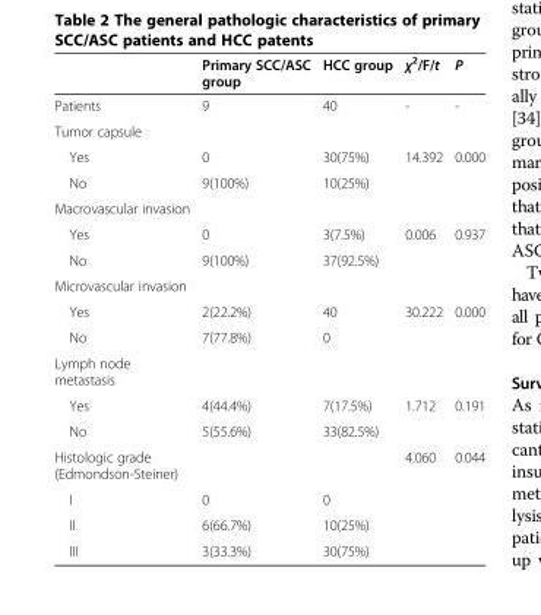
<table><thead><tr><td></td><td>Primary SCC/ASC group</td><td>HCC group</td><td>χ<sup>2</sup>/F/t</td><td>P</td></tr></thead><tbody><tr><td>Patients</td><td>9</td><td>40</td><td>-</td><td>-</td></tr><tr><td colspan="5">Tumor capsule</td></tr><tr><td>Yes</td><td>0</td><td>30(75%)</td><td rowspan="2">14.392</td><td rowspan="2">0.000</td></tr><tr><td>No</td><td>9(100%)</td><td>10(25%)</td></tr><tr><td colspan="5">Macrovascular invasion</td></tr><tr><td>Yes</td><td>0</td><td>3(7.5%)</td><td rowspan="2">0.006</td><td rowspan="2">0.937</td></tr><tr><td>No</td><td>9(100%)</td><td>37(92.5%)</td></tr><tr><td colspan="5">Microvascular invasion</td></tr><tr><td>Yes</td><td>2(22.2%)</td><td>40</td><td rowspan="2">30.222</td><td rowspan="2">0.000</td></tr><tr><td>No</td><td>7(77.8%)</td><td>0</td></tr><tr><td colspan="5">Lymph node metastasis</td></tr><tr><td>Yes</td><td>4(44.4%)</td><td>7(17.5%)</td><td rowspan="2">1.712</td><td rowspan="2">0.191</td></tr><tr><td>No</td><td>5(55.6%)</td><td>33(82.5%)</td></tr><tr><td>Histologic grade (Edmondson-Steiner)</td><td></td><td></td><td>4.060</td><td>0.044</td></tr><tr><td>I</td><td>0</td><td>0</td><td></td><td></td></tr><tr><td>II</td><td>6(66.7%)</td><td>10(25%)</td><td></td><td></td></tr><tr><td>III</td><td>3(33.3%)</td><td>30(75%)</td><td></td><td></td></tr></tbody></table>